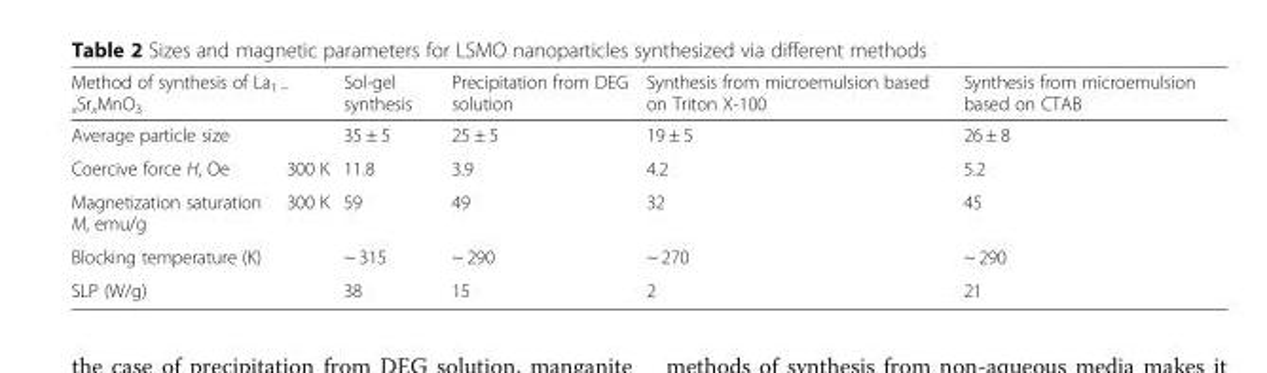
<table><thead><tr><td rowspan="2" colspan="2">Method of synthesis of La<sub>1 − x</sub>Sr<sub>x</sub>MnO<sub>3</sub> Average particle size</td><td rowspan="3">Sol-gel synthesis 35 ± 5 11.8</td><td rowspan="3">Precipitation from DEG solution 25 ± 5 3.9</td><td rowspan="3">Synthesis from microemulsion based on Triton X-100 19 ± 5 4.2</td><td rowspan="3">Synthesis from microemulsion based on CTAB 26 ± 8 5.2</td></tr><tr></tr><tr><td>Coercive force H, Oe</td><td>300 K</td></tr></thead><tbody><tr><td>Magnetization saturation M, emu/g</td><td>300 K</td><td>59</td><td>49</td><td>32</td><td>45</td></tr><tr><td colspan="2">Blocking temperature (K)</td><td>~ 315</td><td>~ 290</td><td>~ 270</td><td>~ 290</td></tr><tr><td colspan="2">SLP (W/g)</td><td>38</td><td>15</td><td>2</td><td>21</td></tr></tbody></table>